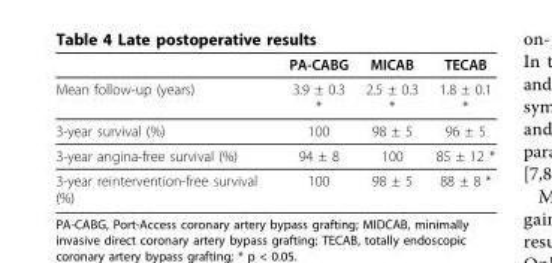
<table><thead><tr><td></td><td>PA-CABG</td><td>MICAB</td><td>TECAB</td></tr></thead><tbody><tr><td>Mean follow-up (years)</td><td>3.9 ± 0.3 *</td><td>2.5 ± 0.3 *</td><td>1.8 ± 0.1 *</td></tr><tr><td>3-year survival (%)</td><td>100</td><td>98 ± 5</td><td>96 ± 5</td></tr><tr><td>3-year angina-free survival (%)</td><td>94 ± 8</td><td>100</td><td>85 ± 12 *</td></tr><tr><td>3-year reintervention-free survival (%)</td><td>100</td><td>98 ± 5</td><td>88 ± 8 *</td></tr></tbody></table>